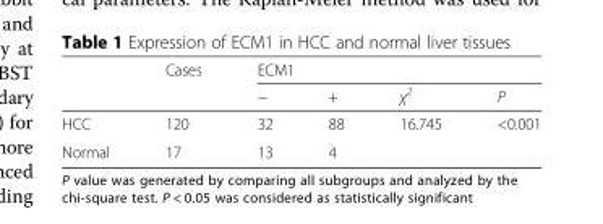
<table><thead><tr><td rowspan="2"></td><td rowspan="2">Cases</td><td colspan="4">ECM1</td></tr><tr><td>−</td><td>+</td><td>χ<sup>2</sup></td><td>P</td></tr></thead><tbody><tr><td>HCC</td><td>120</td><td>32</td><td>88</td><td rowspan="2">16.745</td><td rowspan="2">&lt;0.001</td></tr><tr><td>Normal</td><td>17</td><td>13</td><td>4</td></tr></tbody></table>